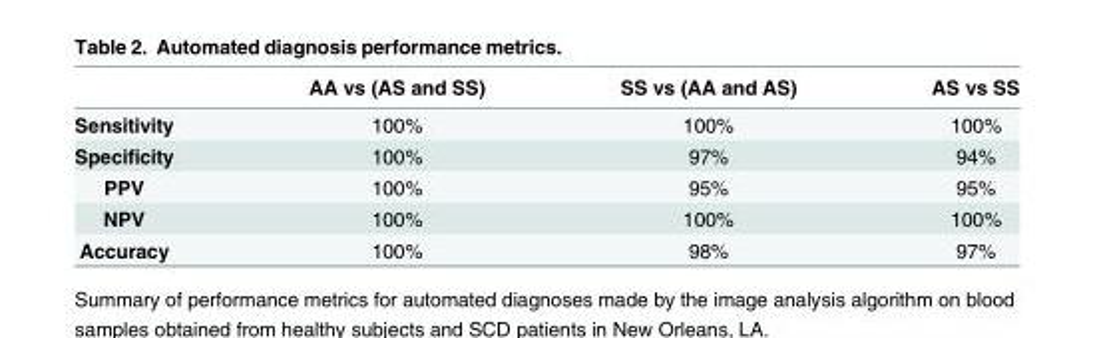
<table><thead><tr><td></td><td>AA vs (AS and SS)</td><td>SS vs (AA and AS)</td><td>AS vs SS</td></tr></thead><tbody><tr><td>Sensitivity</td><td>100%</td><td>100%</td><td>100%</td></tr><tr><td>Specificity</td><td>100%</td><td>97%</td><td>94%</td></tr><tr><td>PPV</td><td>100%</td><td>95%</td><td>95%</td></tr><tr><td>NPV</td><td>100%</td><td>100%</td><td>100%</td></tr><tr><td>Accuracy</td><td>100%</td><td>98%</td><td>97%</td></tr></tbody></table>